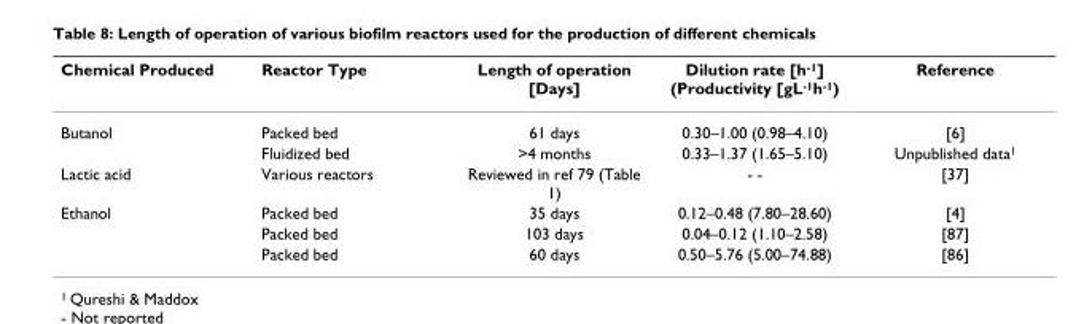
<table><thead><tr><td>Chemical Produced</td><td>Reactor Type</td><td>Length of operation [Days]</td><td>Dilution rate [h<sup>-1</sup>] (Productivity [gL<sup>-1</sup>h<sup>-1</sup>)</td><td>Reference</td></tr></thead><tbody><tr><td rowspan="2">Butanol</td><td>Packed bed</td><td>61 days</td><td>0.30–1.00 (0.98–4.10)</td><td>[6]</td></tr><tr><td>Fluidized bed</td><td>&gt;4 months</td><td>0.33–1.37 (1.65–5.10)</td><td>Unpublished data<sup>1</sup></td></tr><tr><td>Lactic acid</td><td>Various reactors</td><td>Reviewed in ref 79 (Table 1)</td><td>- -</td><td>[37]</td></tr><tr><td rowspan="3">Ethanol</td><td>Packed bed</td><td>35 days</td><td>0.12–0.48 (7.80–28.60)</td><td>[4]</td></tr><tr><td>Packed bed</td><td>103 days</td><td>0.04–0.12 (1.10–2.58)</td><td>[87]</td></tr><tr><td>Packed bed</td><td>60 days</td><td>0.50–5.76 (5.00–74.88)</td><td>[86]</td></tr></tbody></table>